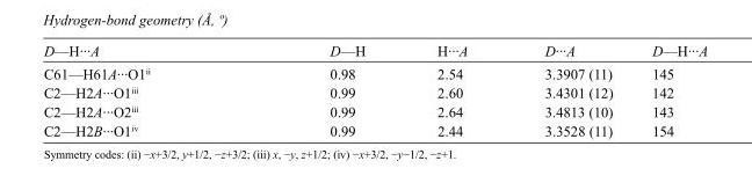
<table><tbody><tr><td>D—H···A</td><td>D—H</td><td>H···A</td><td>D···A</td><td>D—H···A</td></tr><tr><td>C61—H61A···O1<sup>ii</sup></td><td>0.98</td><td>2.54</td><td>3.3907 (11)</td><td>145</td></tr><tr><td>C2—H2A···O1<sup>iii</sup></td><td>0.99</td><td>2.60</td><td>3.4301 (12)</td><td>142</td></tr><tr><td>C2—H2A···O2<sup>iii</sup></td><td>0.99</td><td>2.64</td><td>3.4813 (10)</td><td>143</td></tr><tr><td>C2—H2B···O1<sup>iv</sup></td><td>0.99</td><td>2.44</td><td>3.3528 (11)</td><td>154</td></tr></tbody></table>